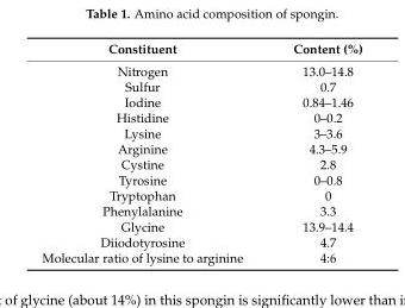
<table><thead><tr><td>Constituent</td><td>Content (%)</td></tr></thead><tbody><tr><td>Nitrogen</td><td>13.0–14.8</td></tr><tr><td>Sulfur</td><td>0.7</td></tr><tr><td>Iodine</td><td>0.84–1.46</td></tr><tr><td>Histidine</td><td>0–0.2</td></tr><tr><td>Lysine</td><td>3–3.6</td></tr><tr><td>Arginine</td><td>4.3–5.9</td></tr><tr><td>Cystine</td><td>2.8</td></tr><tr><td>Tyrosine</td><td>0–0.8</td></tr><tr><td>Tryptophan</td><td>0</td></tr><tr><td>Phenylalanine</td><td>3.3</td></tr><tr><td>Glycine</td><td>13.9–14.4</td></tr><tr><td>Diiodotyrosine</td><td>4.7</td></tr><tr><td>Molecular ratio of lysine to arginine</td><td>4:6</td></tr></tbody></table>